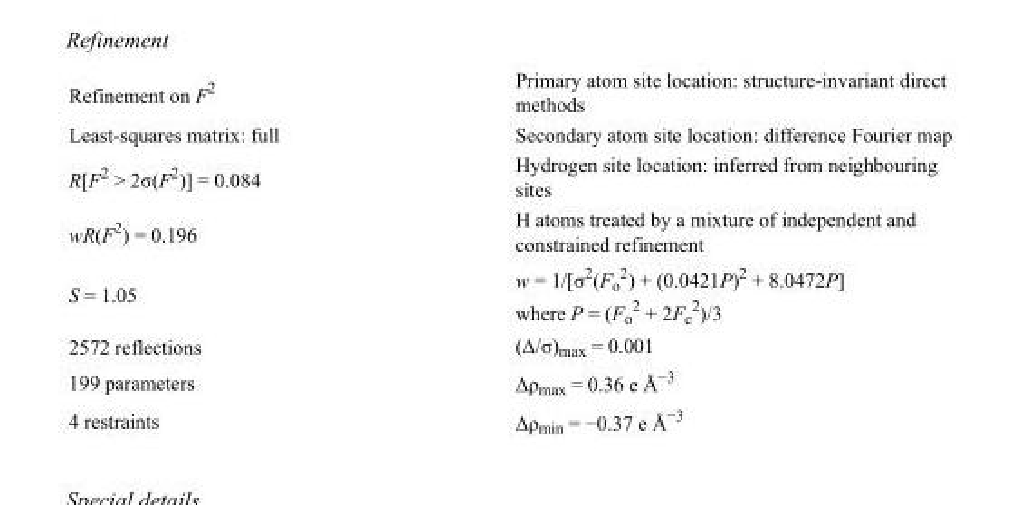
<table><tbody><tr><td>Refinement on F<sup>2</sup></td><td>Primary atom site location: structure-invariant direct methods</td></tr><tr><td>Least-squares matrix: full</td><td>Secondary atom site location: difference Fourier map</td></tr><tr><td>R[F<sup>2</sup> &gt; 2σ(F<sup>2</sup>)] = 0.084</td><td>Hydrogen site location: inferred from neighbouring sites</td></tr><tr><td>wR(F<sup>2</sup>) = 0.196</td><td>H atoms treated by a mixture of independent and constrained refinement</td></tr><tr><td>S = 1.05</td><td>w = 1/[σ<sup>2</sup>(F<sub>o</sub> <sup>2</sup>) + (0.0421P)<sup>2</sup> + 8.0472P] where P = (F<sub>o</sub> <sup>2</sup> + 2F<sub>c</sub> <sup>2</sup>)/3</td></tr><tr><td>2572 reflections</td><td>(Δ/σ)<sub>max</sub> = 0.001</td></tr><tr><td>199 parameters</td><td>Δρ<sub>max</sub> = 0.36 e Å<sup>−3</sup></td></tr><tr><td>4 restraints</td><td>Δρ<sub>min</sub> = −0.37 e Å<sup>−3</sup></td></tr></tbody></table>